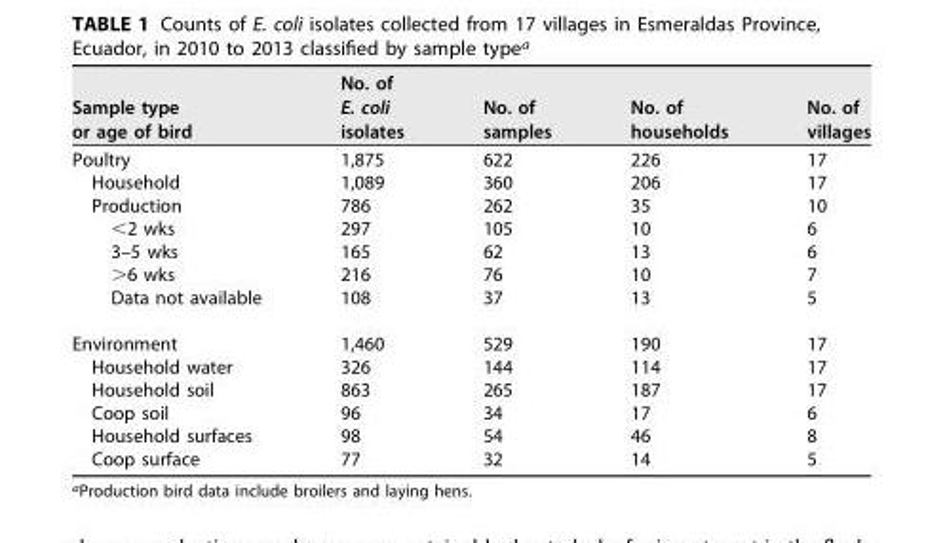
<table><thead><tr><td>Sample type or age of bird</td><td>No. of E. coli isolates</td><td>No. of samples</td><td>No. of households</td><td>No. of villages</td></tr></thead><tbody><tr><td>Poultry</td><td>1,875</td><td>622</td><td>226</td><td>17</td></tr><tr><td>Household</td><td>1,089</td><td>360</td><td>206</td><td>17</td></tr><tr><td>Production</td><td>786</td><td>262</td><td>35</td><td>10</td></tr><tr><td>&lt;2 wks</td><td>297</td><td>105</td><td>10</td><td>6</td></tr><tr><td>3–5 wks</td><td>165</td><td>62</td><td>13</td><td>6</td></tr><tr><td>&gt;6 wks</td><td>216</td><td>76</td><td>10</td><td>7</td></tr><tr><td>Data not available</td><td>108</td><td>37</td><td>13</td><td>5</td></tr><tr><td>Environment</td><td>1,460</td><td>529</td><td>190</td><td>17</td></tr><tr><td>Household water</td><td>326</td><td>144</td><td>114</td><td>17</td></tr><tr><td>Household soil</td><td>863</td><td>265</td><td>187</td><td>17</td></tr><tr><td>Coop soil</td><td>96</td><td>34</td><td>17</td><td>6</td></tr><tr><td>Household surfaces</td><td>98</td><td>54</td><td>46</td><td>8</td></tr><tr><td>Coop surface</td><td>77</td><td>32</td><td>14</td><td>5</td></tr></tbody></table>